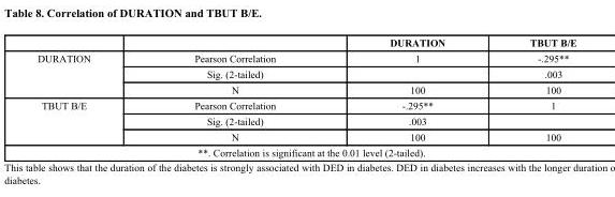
<table><thead><tr><td></td><td></td><td>DURATION</td><td>TBUT B/E</td></tr></thead><tbody><tr><td rowspan="3">DURATION</td><td>Pearson Correlation</td><td>1</td><td>-.295**</td></tr><tr><td>Sig. (2-tailed)</td><td></td><td>.003</td></tr><tr><td>N</td><td>100</td><td>100</td></tr><tr><td rowspan="3">TBUT B/E</td><td>Pearson Correlation</td><td>-.295**</td><td>1</td></tr><tr><td>Sig. (2-tailed)</td><td>.003</td><td></td></tr><tr><td>N</td><td>100</td><td>100</td></tr><tr><td colspan="4">**. Correlation is significant at the 0.01 level (2-tailed).</td></tr></tbody></table>